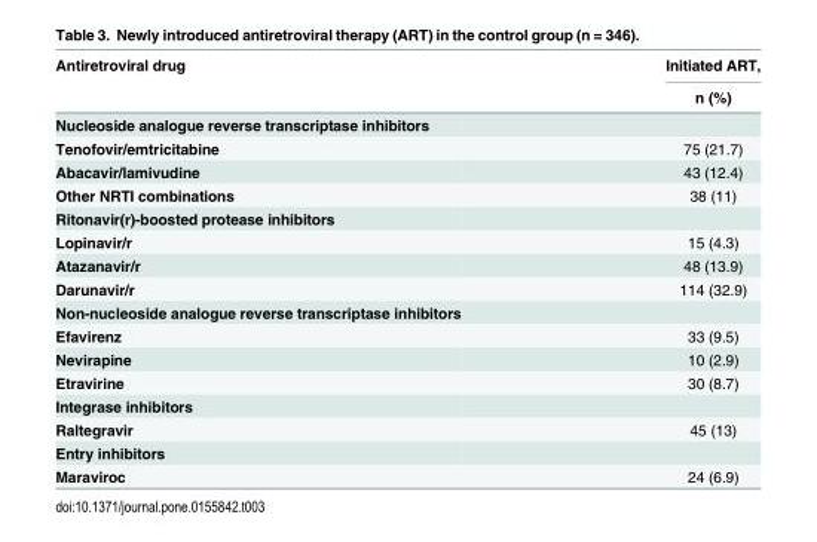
<table><thead><tr><td rowspan="2">Antiretroviral drug</td><td rowspan="2">Initiated ART, n (%)</td></tr><tr></tr></thead><tbody><tr><td colspan="2">Nucleoside analogue reverse transcriptase inhibitors</td></tr><tr><td>Tenofovir/emtricitabine</td><td>75 (21.7)</td></tr><tr><td>Abacavir/lamivudine</td><td>43 (12.4)</td></tr><tr><td>Other NRTI combinations</td><td>38 (11)</td></tr><tr><td colspan="2">Ritonavir(r)-boosted protease inhibitors</td></tr><tr><td>Lopinavir/r</td><td>15 (4.3)</td></tr><tr><td>Atazanavir/r</td><td>48 (13.9)</td></tr><tr><td>Darunavir/r</td><td>114 (32.9)</td></tr><tr><td colspan="2">Non-nucleoside analogue reverse transcriptase inhibitors</td></tr><tr><td>Efavirenz</td><td>33 (9.5)</td></tr><tr><td>Nevirapine</td><td>10 (2.9)</td></tr><tr><td>Etravirine</td><td>30 (8.7)</td></tr><tr><td colspan="2">Integrase inhibitors</td></tr><tr><td>Raltegravir</td><td>45 (13)</td></tr><tr><td colspan="2">Entry inhibitors</td></tr><tr><td>Maraviroc</td><td>24 (6.9)</td></tr></tbody></table>